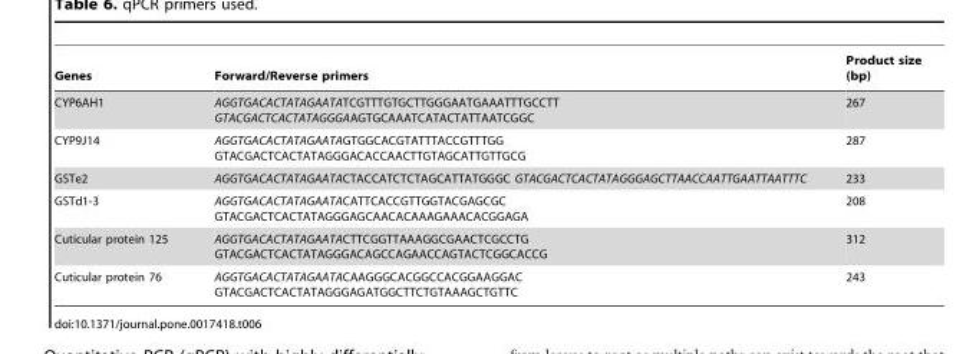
<table><thead><tr><td>Genes</td><td>Forward/Reverse primers</td><td>Product size (bp)</td></tr></thead><tbody><tr><td>CYP6AH1</td><td>AGGTGACACTATAGAATATCGTTTGTGCTTGGGAATGAAATTTGCCTT GTACGACTCACTATAGGGAAGTGCAAATCATACTATTAATCGGC</td><td>267</td></tr><tr><td>CYP9J14</td><td>AGGTGACACTATAGAATAGTGGCACGTATTTACCGTTTGG GTACGACTCACTATAGGGACACCAACTTGTAGCATTGTTGCG</td><td>287</td></tr><tr><td>GSTe2</td><td>AGGTGACACTATAGAATACTACCATCTCTAGCATTATGGGC GTACGACTCACTATAGGGAGCTTAACCAATTGAATTAATTTC</td><td>233</td></tr><tr><td>GSTd1-3</td><td>AGGTGACACTATAGAATACATTCACCGTTGGTACGAGCGC GTACGACTCACTATAGGGAGCAACACAAAGAAACACGGAGA</td><td>208</td></tr><tr><td>Cuticular protein 125</td><td>AGGTGACACTATAGAATACTTCGGTTAAAGGCGAACTCGCCTG GTACGACTCACTATAGGGACAGCCAGAACCAGTACTCGGCACCG</td><td>312</td></tr><tr><td>Cuticular protein 76</td><td>AGGTGACACTATAGAATACAAGGGCACGGCCACGGAAGGAC GTACGACTCACTATAGGGAGATGGCTTCTGTAAAGCTGTTC</td><td>243</td></tr></tbody></table>